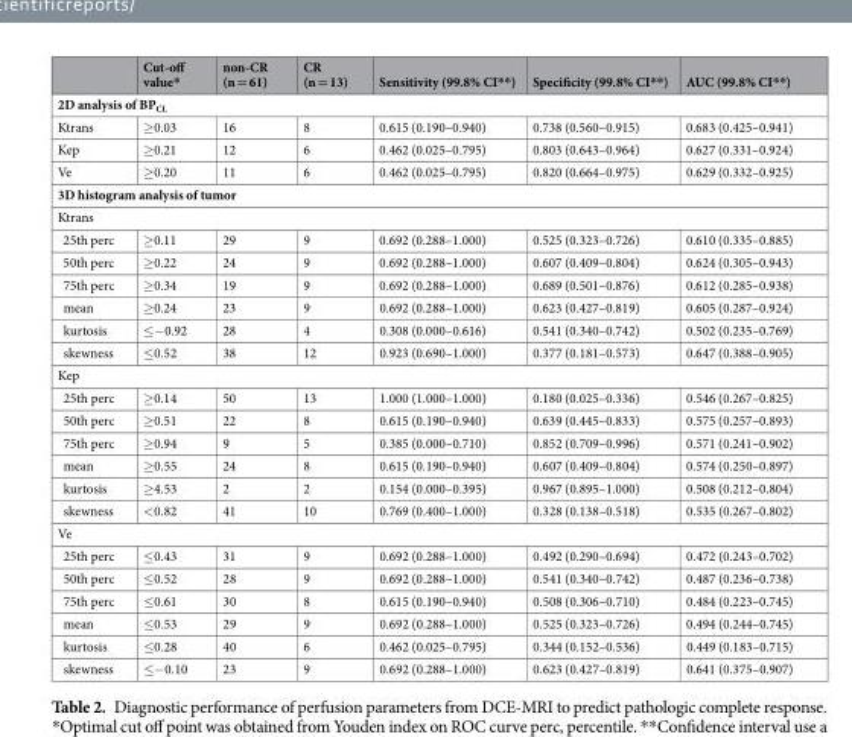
<table><thead><tr><td></td><td>Cut-off value*</td><td>non-CR (n = 61)</td><td>CR (n = 13)</td><td>Sensitivity (99.8% CI**)</td><td>Specificity (99.8% CI**)</td><td>AUC (99.8% CI**)</td></tr></thead><tbody><tr><td colspan="7">2D analysis of BP<sub>CL</sub></td></tr><tr><td>Ktrans</td><td>≥0.03</td><td>16</td><td>8</td><td>0.615 (0.190–0.940)</td><td>0.738 (0.560–0.915)</td><td>0.683 (0.425–0.941)</td></tr><tr><td>Kep</td><td>≥0.21</td><td>12</td><td>6</td><td>0.462 (0.025–0.795)</td><td>0.803 (0.643–0.964)</td><td>0.627 (0.331–0.924)</td></tr><tr><td>Ve</td><td>≥0.20</td><td>11</td><td>6</td><td>0.462 (0.025–0.795)</td><td>0.820 (0.664–0.975)</td><td>0.629 (0.332–0.925)</td></tr><tr><td colspan="7">3D histogram analysis of tumor</td></tr><tr><td colspan="7">Ktrans</td></tr><tr><td>25th perc</td><td>≥0.11</td><td>29</td><td>9</td><td>0.692 (0.288–1.000)</td><td>0.525 (0.323–0.726)</td><td>0.610 (0.335–0.885)</td></tr><tr><td>50th perc</td><td>≥0.22</td><td>24</td><td>9</td><td>0.692 (0.288–1.000)</td><td>0.607 (0.409–0.804)</td><td>0.624 (0.305–0.943)</td></tr><tr><td>75th perc</td><td>≥0.34</td><td>19</td><td>9</td><td>0.692 (0.288–1.000)</td><td>0.689 (0.501–0.876)</td><td>0.612 (0.285–0.938)</td></tr><tr><td>mean</td><td>≥0.24</td><td>23</td><td>9</td><td>0.692 (0.288–1.000)</td><td>0.623 (0.427–0.819)</td><td>0.605 (0.287–0.924)</td></tr><tr><td>kurtosis</td><td>≤−0.92</td><td>28</td><td>4</td><td>0.308 (0.000–0.616)</td><td>0.541 (0.340–0.742)</td><td>0.502 (0.235–0.769)</td></tr><tr><td>skewness</td><td>≤0.52</td><td>38</td><td>12</td><td>0.923 (0.690–1.000)</td><td>0.377 (0.181–0.573)</td><td>0.647 (0.388–0.905)</td></tr><tr><td colspan="7">Kep</td></tr><tr><td>25th perc</td><td>≥0.14</td><td>50</td><td>13</td><td>1.000 (1.000–1.000)</td><td>0.180 (0.025–0.336)</td><td>0.546 (0.267–0.825)</td></tr><tr><td>50th perc</td><td>≥0.51</td><td>22</td><td>8</td><td>0.615 (0.190–0.940)</td><td>0.639 (0.445–0.833)</td><td>0.575 (0.257–0.893)</td></tr><tr><td>75th perc</td><td>≥0.94</td><td>9</td><td>5</td><td>0.385 (0.000–0.710)</td><td>0.852 (0.709–0.996)</td><td>0.571 (0.241–0.902)</td></tr><tr><td>mean</td><td>≥0.55</td><td>24</td><td>8</td><td>0.615 (0.190–0.940)</td><td>0.607 (0.409–0.804)</td><td>0.574 (0.250–0.897)</td></tr><tr><td>kurtosis</td><td>≥4.53</td><td>2</td><td>2</td><td>0.154 (0.000–0.395)</td><td>0.967 (0.895–1.000)</td><td>0.508 (0.212–0.804)</td></tr><tr><td>skewness</td><td>&lt;0.82</td><td>41</td><td>10</td><td>0.769 (0.400–1.000)</td><td>0.328 (0.138–0.518)</td><td>0.535 (0.267–0.802)</td></tr><tr><td colspan="7">Ve</td></tr><tr><td>25th perc</td><td>≤0.43</td><td>31</td><td>9</td><td>0.692 (0.288–1.000)</td><td>0.492 (0.290–0.694)</td><td>0.472 (0.243–0.702)</td></tr><tr><td>50th perc</td><td>≤0.52</td><td>28</td><td>9</td><td>0.692 (0.288–1.000)</td><td>0.541 (0.340–0.742)</td><td>0.487 (0.236–0.738)</td></tr><tr><td>75th perc</td><td>≤0.61</td><td>30</td><td>8</td><td>0.615 (0.190–0.940)</td><td>0.508 (0.306–0.710)</td><td>0.484 (0.223–0.745)</td></tr><tr><td>mean</td><td>≤0.53</td><td>29</td><td>9</td><td>0.692 (0.288–1.000)</td><td>0.525 (0.323–0.726)</td><td>0.494 (0.244–0.745)</td></tr><tr><td>kurtosis</td><td>≤0.28</td><td>40</td><td>6</td><td>0.462 (0.025–0.795)</td><td>0.344 (0.152–0.536)</td><td>0.449 (0.183–0.715)</td></tr><tr><td>skewness</td><td>≤−0.10</td><td>23</td><td>9</td><td>0.692 (0.288–1.000)</td><td>0.623 (0.427–0.819)</td><td>0.641 (0.375–0.907)</td></tr></tbody></table>